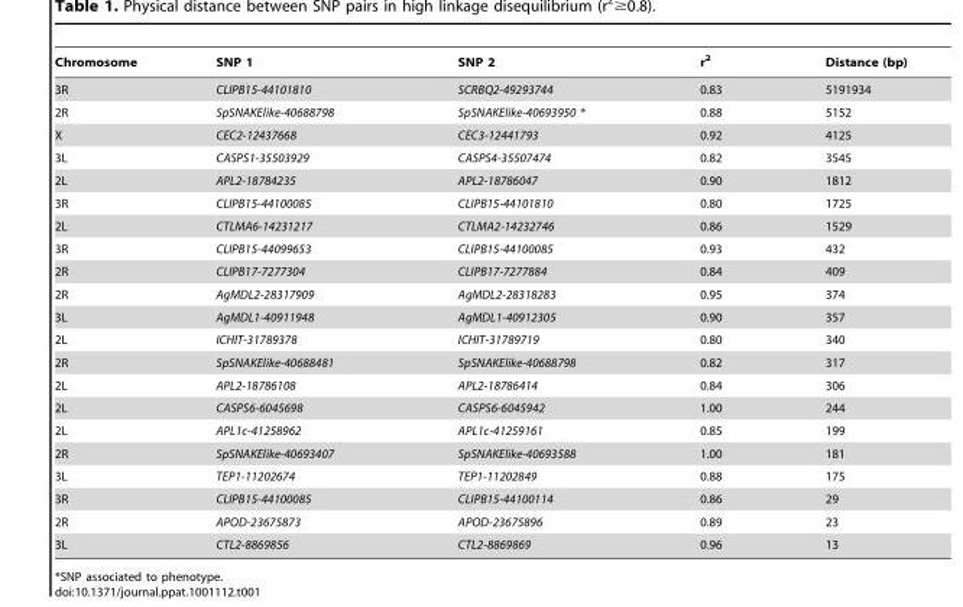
<table><thead><tr><td>Chromosome</td><td>SNP 1</td><td>SNP 2</td><td>r<sup>2</sup></td><td>Distance (bp)</td></tr></thead><tbody><tr><td>3R</td><td>CLIPB15-44101810</td><td>SCRBQ2-49293744</td><td>0.83</td><td>5191934</td></tr><tr><td>2R</td><td>SpSNAKElike-40688798</td><td>SpSNAKElike-40693950 *</td><td>0.88</td><td>5152</td></tr><tr><td>X</td><td>CEC2-12437668</td><td>CEC3-12441793</td><td>0.92</td><td>4125</td></tr><tr><td>3L</td><td>CASPS1-35503929</td><td>CASPS4-35507474</td><td>0.82</td><td>3545</td></tr><tr><td>2L</td><td>APL2-18784235</td><td>APL2-18786047</td><td>0.90</td><td>1812</td></tr><tr><td>3R</td><td>CLIPB15-44100085</td><td>CLIPB15-44101810</td><td>0.80</td><td>1725</td></tr><tr><td>2L</td><td>CTLMA6-14231217</td><td>CTLMA2-14232746</td><td>0.86</td><td>1529</td></tr><tr><td>3R</td><td>CLIPB15-44099653</td><td>CLIPB15-44100085</td><td>0.93</td><td>432</td></tr><tr><td>2R</td><td>CLIPB17-7277304</td><td>CLIPB17-7277884</td><td>0.84</td><td>409</td></tr><tr><td>2R</td><td>AgMDL2-28317909</td><td>AgMDL2-28318283</td><td>0.95</td><td>374</td></tr><tr><td>3L</td><td>AgMDL1-40911948</td><td>AgMDL1-40912305</td><td>0.90</td><td>357</td></tr><tr><td>2L</td><td>ICHIT-31789378</td><td>ICHIT-31789719</td><td>0.80</td><td>340</td></tr><tr><td>2R</td><td>SpSNAKElike-40688481</td><td>SpSNAKElike-40688798</td><td>0.82</td><td>317</td></tr><tr><td>2L</td><td>APL2-18786108</td><td>APL2-18786414</td><td>0.84</td><td>306</td></tr><tr><td>2L</td><td>CASPS6-6045698</td><td>CASPS6-6045942</td><td>1.00</td><td>244</td></tr><tr><td>2L</td><td>APL1c-41258962</td><td>APL1c-41259161</td><td>0.85</td><td>199</td></tr><tr><td>2R</td><td>SpSNAKElike-40693407</td><td>SpSNAKElike-40693588</td><td>1.00</td><td>181</td></tr><tr><td>3L</td><td>TEP1-11202674</td><td>TEP1-11202849</td><td>0.88</td><td>175</td></tr><tr><td>3R</td><td>CLIPB15-44100085</td><td>CLIPB15-44100114</td><td>0.86</td><td>29</td></tr><tr><td>2R</td><td>APOD-23675873</td><td>APOD-23675896</td><td>0.89</td><td>23</td></tr><tr><td>3L</td><td>CTL2-8869856</td><td>CTL2-8869869</td><td>0.96</td><td>13</td></tr></tbody></table>